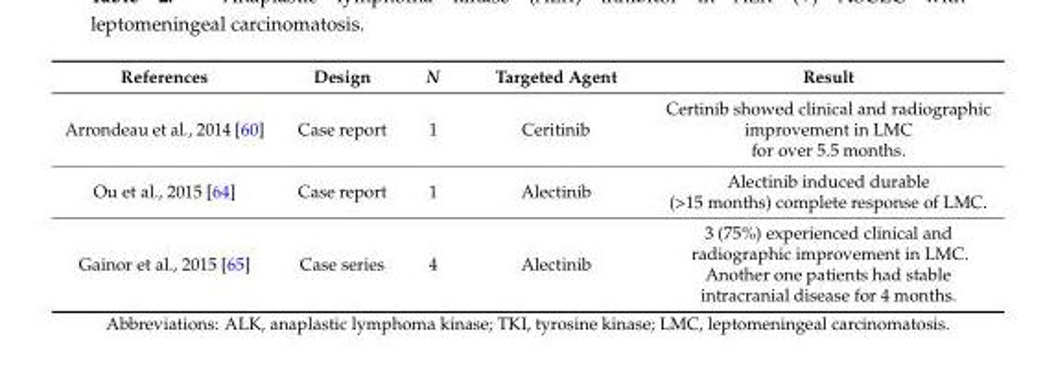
<table><thead><tr><td>References</td><td>Design</td><td>N</td><td>Targeted Agent</td><td>Result</td></tr></thead><tbody><tr><td>Arrondeau et al., 2014 [60]</td><td>Case report</td><td>1</td><td>Ceritinib</td><td>Certinib showed clinical and radiographic improvement in LMC for over 5.5 months.</td></tr><tr><td>Ou et al., 2015 [64]</td><td>Case report</td><td>1</td><td>Alectinib</td><td>Alectinib induced durable (&gt;15 months) complete response of LMC.</td></tr><tr><td>Gainor et al., 2015 [65]</td><td>Case series</td><td>4</td><td>Alectinib</td><td>3 (75%) experienced clinical and radiographic improvement in LMC. Another one patients had stable intracranial disease for 4 months.</td></tr></tbody></table>